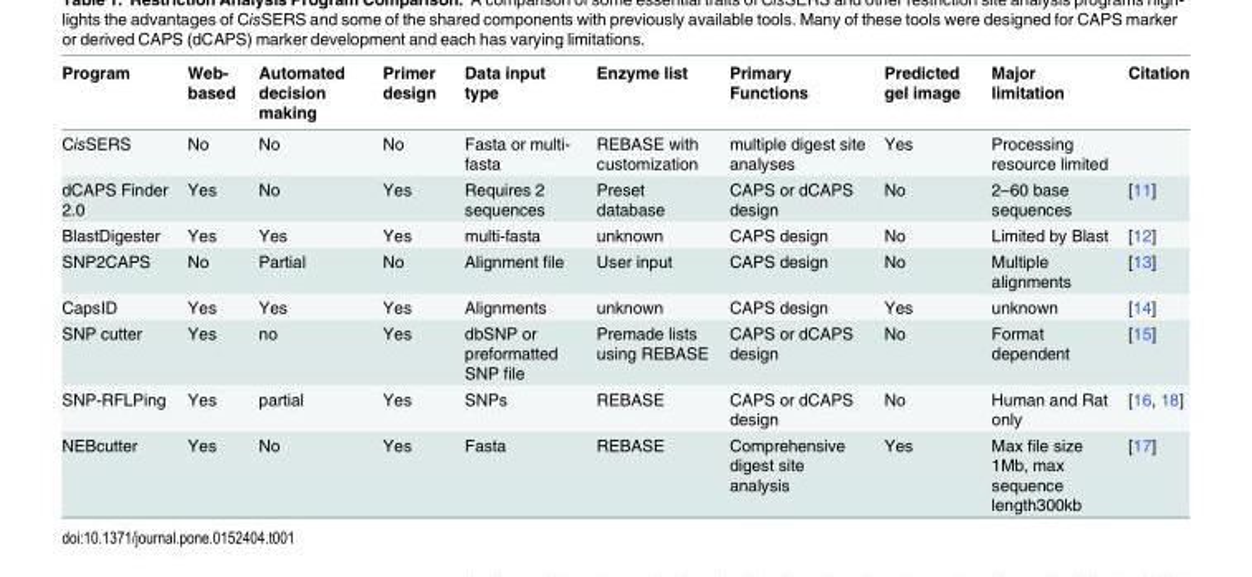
<table><thead><tr><td>Program</td><td>Web- based</td><td>Automated decision making</td><td>Primer design</td><td>Data input type</td><td>Enzyme list</td><td>Primary Functions</td><td>Predicted gel image</td><td>Major limitation</td><td>Citation</td></tr></thead><tbody><tr><td>CisSERS</td><td>No</td><td>No</td><td>No</td><td>Fasta or multi- fasta</td><td>REBASE with customization</td><td>multiple digest site analyses</td><td>Yes</td><td>Processing resource limited</td><td></td></tr><tr><td>dCAPS Finder 2.0</td><td>Yes</td><td>No</td><td>Yes</td><td>Requires 2 sequences</td><td>Preset database</td><td>CAPS or dCAPS design</td><td>No</td><td>2–60 base sequences</td><td>[11]</td></tr><tr><td>BlastDigester</td><td>Yes</td><td>Yes</td><td>Yes</td><td>multi-fasta</td><td>unknown</td><td>CAPS design</td><td>No</td><td>Limited by Blast</td><td>[12]</td></tr><tr><td>SNP2CAPS</td><td>No</td><td>Partial</td><td>No</td><td>Alignment file</td><td>User input</td><td>CAPS design</td><td>No</td><td>Multiple alignments</td><td>[13]</td></tr><tr><td>CapsID</td><td>Yes</td><td>Yes</td><td>Yes</td><td>Alignments</td><td>unknown</td><td>CAPS design</td><td>Yes</td><td>unknown</td><td>[14]</td></tr><tr><td>SNP cutter</td><td>Yes</td><td>no</td><td>Yes</td><td>dbSNP or preformatted SNP file</td><td>Premade lists using REBASE</td><td>CAPS or dCAPS design</td><td>No</td><td>Format dependent</td><td>[15]</td></tr><tr><td>SNP-RFLPing</td><td>Yes</td><td>partial</td><td>Yes</td><td>SNPs</td><td>REBASE</td><td>CAPS or dCAPS design</td><td>No</td><td>Human and Rat only</td><td>[16, 18]</td></tr><tr><td>NEBcutter</td><td>Yes</td><td>No</td><td>Yes</td><td>Fasta</td><td>REBASE</td><td>Comprehensive digest site analysis</td><td>Yes</td><td>Max file size 1Mb, max sequence length300kb</td><td>[17]</td></tr></tbody></table>